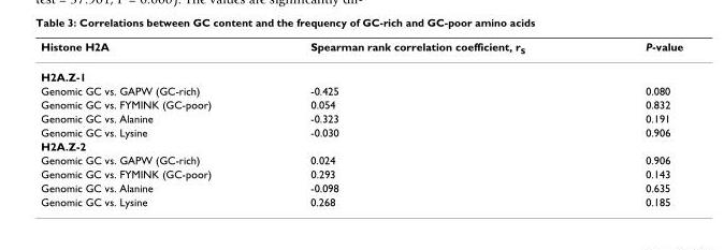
<table><thead><tr><td>Histone H2A</td><td>Spearman rank correlation coefficient, r<sub>S</sub></td><td>P-value</td></tr></thead><tbody><tr><td colspan="3">H2A.Z-1</td></tr><tr><td>Genomic GC vs. GAPW (GC-rich)</td><td>-0.425</td><td>0.080</td></tr><tr><td>Genomic GC vs. FYMINK (GC-poor)</td><td>0.054</td><td>0.832</td></tr><tr><td>Genomic GC vs. Alanine</td><td>-0.323</td><td>0.191</td></tr><tr><td>Genomic GC vs. Lysine</td><td>-0.030</td><td>0.906</td></tr><tr><td colspan="3">H2A.Z-2</td></tr><tr><td>Genomic GC vs. GAPW (GC-rich)</td><td>0.024</td><td>0.906</td></tr><tr><td>Genomic GC vs. FYMINK (GC-poor)</td><td>0.293</td><td>0.143</td></tr><tr><td>Genomic GC vs. Alanine</td><td>-0.098</td><td>0.635</td></tr><tr><td>Genomic GC vs. Lysine</td><td>0.268</td><td>0.185</td></tr></tbody></table>